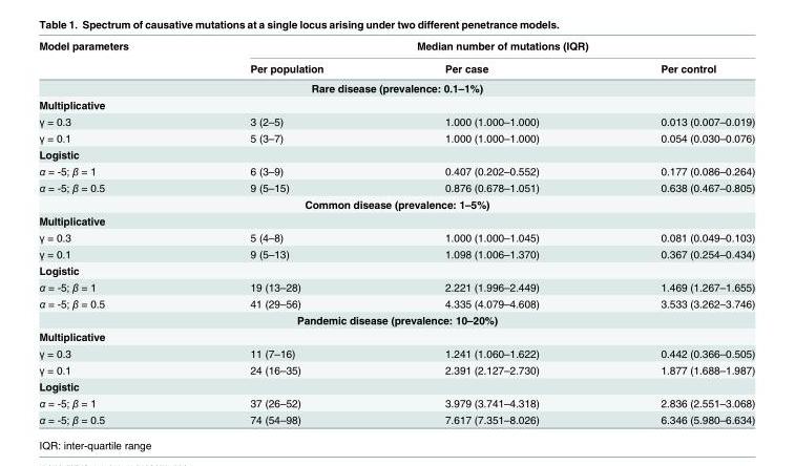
<table><thead><tr><td rowspan="2">Model parameters</td><td colspan="3">Median number of mutations (IQR)</td></tr><tr><td>Per population</td><td>Per case</td><td>Per control</td></tr></thead><tbody><tr><td colspan="4">Rare disease (prevalence: 0.1–1%)</td></tr><tr><td colspan="4">Multiplicative</td></tr><tr><td>γ = 0.3</td><td>3 (2–5)</td><td>1.000 (1.000–1.000)</td><td>0.013 (0.007–0.019)</td></tr><tr><td>γ = 0.1</td><td>5 (3–7)</td><td>1.000 (1.000–1.000)</td><td>0.054 (0.030–0.076)</td></tr><tr><td colspan="4">Logistic</td></tr><tr><td>α = -5; β = 1</td><td>6 (3–9)</td><td>0.407 (0.202–0.552)</td><td>0.177 (0.086–0.264)</td></tr><tr><td>α = -5; β = 0.5</td><td>9 (5–15)</td><td>0.876 (0.678–1.051)</td><td>0.638 (0.467–0.805)</td></tr><tr><td colspan="4">Common disease (prevalence: 1–5%)</td></tr><tr><td colspan="4">Multiplicative</td></tr><tr><td>γ = 0.3</td><td>5 (4–8)</td><td>1.000 (1.000–1.045)</td><td>0.081 (0.049–0.103)</td></tr><tr><td>γ = 0.1</td><td>9 (5–13)</td><td>1.098 (1.006–1.370)</td><td>0.367 (0.254–0.434)</td></tr><tr><td colspan="4">Logistic</td></tr><tr><td>α = -5; β = 1</td><td>19 (13–28)</td><td>2.221 (1.996–2.449)</td><td>1.469 (1.267–1.655)</td></tr><tr><td>α = -5; β = 0.5</td><td>41 (29–56)</td><td>4.335 (4.079–4.608)</td><td>3.533 (3.262–3.746)</td></tr><tr><td colspan="4">Pandemic disease (prevalence: 10–20%)</td></tr><tr><td colspan="4">Multiplicative</td></tr><tr><td>γ = 0.3</td><td>11 (7–16)</td><td>1.241 (1.060–1.622)</td><td>0.442 (0.366–0.505)</td></tr><tr><td>γ = 0.1</td><td>24 (16–35)</td><td>2.391 (2.127–2.730)</td><td>1.877 (1.688–1.987)</td></tr><tr><td colspan="4">Logistic</td></tr><tr><td>α = -5; β = 1</td><td>37 (26–52)</td><td>3.979 (3.741–4.318)</td><td>2.836 (2.551–3.068)</td></tr><tr><td>α = -5; β = 0.5</td><td>74 (54–98)</td><td>7.617 (7.351–8.026)</td><td>6.346 (5.980–6.634)</td></tr></tbody></table>